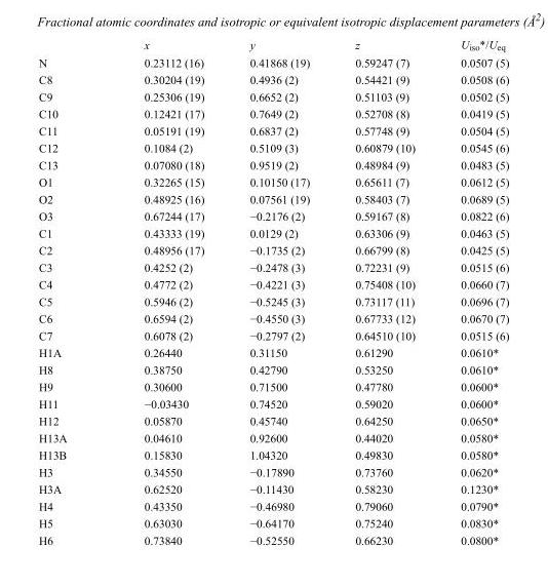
<table><thead><tr><td></td><td>x</td><td>y</td><td>z</td><td>U<sub>iso</sub>*/U<sub>eq</sub></td></tr></thead><tbody><tr><td>N</td><td>0.23112 (16)</td><td>0.41868 (19)</td><td>0.59247 (7)</td><td>0.0507 (5)</td></tr><tr><td>C8</td><td>0.30204 (19)</td><td>0.4936 (2)</td><td>0.54421 (9)</td><td>0.0508 (6)</td></tr><tr><td>C9</td><td>0.25306 (19)</td><td>0.6652 (2)</td><td>0.51103 (9)</td><td>0.0502 (5)</td></tr><tr><td>C10</td><td>0.12421 (17)</td><td>0.7649 (2)</td><td>0.52708 (8)</td><td>0.0419 (5)</td></tr><tr><td>C11</td><td>0.05191 (19)</td><td>0.6837 (2)</td><td>0.57748 (9)</td><td>0.0504 (5)</td></tr><tr><td>C12</td><td>0.1084 (2)</td><td>0.5109 (3)</td><td>0.60879 (10)</td><td>0.0545 (6)</td></tr><tr><td>C13</td><td>0.07080 (18)</td><td>0.9519 (2)</td><td>0.48984 (9)</td><td>0.0483 (5)</td></tr><tr><td>O1</td><td>0.32265 (15)</td><td>0.10150 (17)</td><td>0.65611 (7)</td><td>0.0612 (5)</td></tr><tr><td>O2</td><td>0.48925 (16)</td><td>0.07561 (19)</td><td>0.58403 (7)</td><td>0.0689 (5)</td></tr><tr><td>O3</td><td>0.67244 (17)</td><td>−0.2176 (2)</td><td>0.59167 (8)</td><td>0.0822 (6)</td></tr><tr><td>C1</td><td>0.43333 (19)</td><td>0.0129 (2)</td><td>0.63306 (9)</td><td>0.0463 (5)</td></tr><tr><td>C2</td><td>0.48956 (17)</td><td>−0.1735 (2)</td><td>0.66799 (8)</td><td>0.0425 (5)</td></tr><tr><td>C3</td><td>0.4252 (2)</td><td>−0.2478 (3)</td><td>0.72231 (9)</td><td>0.0515 (6)</td></tr><tr><td>C4</td><td>0.4772 (2)</td><td>−0.4221 (3)</td><td>0.75408 (10)</td><td>0.0660 (7)</td></tr><tr><td>C5</td><td>0.5946 (2)</td><td>−0.5245 (3)</td><td>0.73117 (11)</td><td>0.0696 (7)</td></tr><tr><td>C6</td><td>0.6594 (2)</td><td>−0.4550 (3)</td><td>0.67733 (12)</td><td>0.0670 (7)</td></tr><tr><td>C7</td><td>0.6078 (2)</td><td>−0.2797 (2)</td><td>0.64510 (10)</td><td>0.0515 (6)</td></tr><tr><td>H1A</td><td>0.26440</td><td>0.31150</td><td>0.61290</td><td>0.0610*</td></tr><tr><td>H8</td><td>0.38750</td><td>0.42790</td><td>0.53250</td><td>0.0610*</td></tr><tr><td>H9</td><td>0.30600</td><td>0.71500</td><td>0.47780</td><td>0.0600*</td></tr><tr><td>H11</td><td>−0.03430</td><td>0.74520</td><td>0.59020</td><td>0.0600*</td></tr><tr><td>H12</td><td>0.05870</td><td>0.45740</td><td>0.64250</td><td>0.0650*</td></tr><tr><td>H13A</td><td>0.04610</td><td>0.92600</td><td>0.44020</td><td>0.0580*</td></tr><tr><td>H13B</td><td>0.15830</td><td>1.04320</td><td>0.49830</td><td>0.0580*</td></tr><tr><td>H3</td><td>0.34550</td><td>−0.17890</td><td>0.73760</td><td>0.0620*</td></tr><tr><td>H3A</td><td>0.62520</td><td>−0.11430</td><td>0.58230</td><td>0.1230*</td></tr><tr><td>H4</td><td>0.43350</td><td>−0.46980</td><td>0.79060</td><td>0.0790*</td></tr><tr><td>H5</td><td>0.63030</td><td>−0.64170</td><td>0.75240</td><td>0.0830*</td></tr><tr><td>H6</td><td>0.73840</td><td>−0.52550</td><td>0.66230</td><td>0.0800*</td></tr></tbody></table>